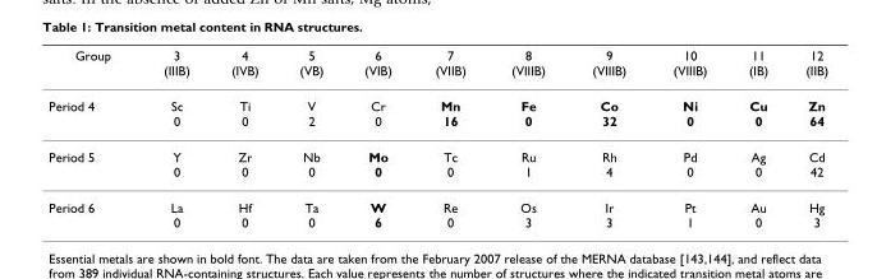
<table><thead><tr><td>Group</td><td>3 (IIIB)</td><td>4 (IVB)</td><td>5 (VB)</td><td>6 (VIB)</td><td>7 (VIIB)</td><td>8 (VIIIB)</td><td>9 (VIIIB)</td><td>10 (VIIIB)</td><td>11 (IB)</td><td>12 (IIB)</td></tr></thead><tbody><tr><td>Period 4</td><td>Sc 0</td><td>Ti 0</td><td>V 2</td><td>Cr 0</td><td>Mn 16</td><td>Fe 0</td><td>Co 32</td><td>Ni 0</td><td>Cu 0</td><td>Zn 64</td></tr><tr><td>Period 5</td><td>Y 0</td><td>Zr 0</td><td>Nb 0</td><td>Mo 0</td><td>Tc 0</td><td>Ru 1</td><td>Rh 4</td><td>Pd 0</td><td>Ag 0</td><td>Cd 42</td></tr><tr><td>Period 6</td><td>La 0</td><td>Hf 0</td><td>Ta 0</td><td>W 6</td><td>Re 0</td><td>Os 3</td><td>Ir 3</td><td>Pt 1</td><td>Au 0</td><td>Hg 3</td></tr></tbody></table>